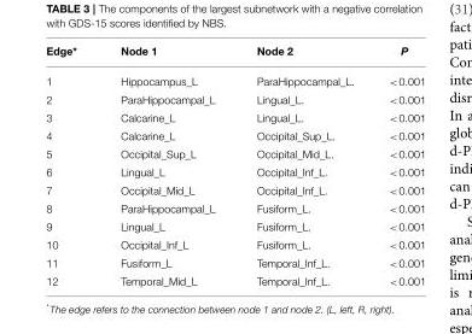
<table><thead><tr><td>Edge*</td><td>Node 1</td><td>Node 2</td><td>P</td></tr></thead><tbody><tr><td>1</td><td>Hippocampus_L</td><td>ParaHippocampal_L.</td><td>&lt;0.001</td></tr><tr><td>2</td><td>ParaHippocampal_L</td><td>Lingual_L.</td><td>&lt;0.001</td></tr><tr><td>3</td><td>Calcarine_L</td><td>Lingual_L.</td><td>&lt;0.001</td></tr><tr><td>4</td><td>Calcarine_L</td><td>Occipital_Sup_L.</td><td>&lt;0.001</td></tr><tr><td>5</td><td>Occipital_Sup_L</td><td>Occipital_Mid_L.</td><td>&lt;0.001</td></tr><tr><td>6</td><td>Lingual_L</td><td>Occipital_Inf_L.</td><td>&lt;0.001</td></tr><tr><td>7</td><td>Occipital_Mid_L</td><td>Occipital_Inf_L.</td><td>&lt;0.001</td></tr><tr><td>8</td><td>ParaHippocampal_L</td><td>Fusiform_L.</td><td>&lt;0.001</td></tr><tr><td>9</td><td>Lingual_L</td><td>Fusiform_L.</td><td>&lt;0.001</td></tr><tr><td>10</td><td>Occipital_Inf_L</td><td>Fusiform_L.</td><td>&lt;0.001</td></tr><tr><td>11</td><td>Fusiform_L</td><td>Temporal_Inf_L.</td><td>&lt;0.001</td></tr><tr><td>12</td><td>Temporal_Mid_L</td><td>Temporal_Inf_L.</td><td>&lt;0.001</td></tr></tbody></table>